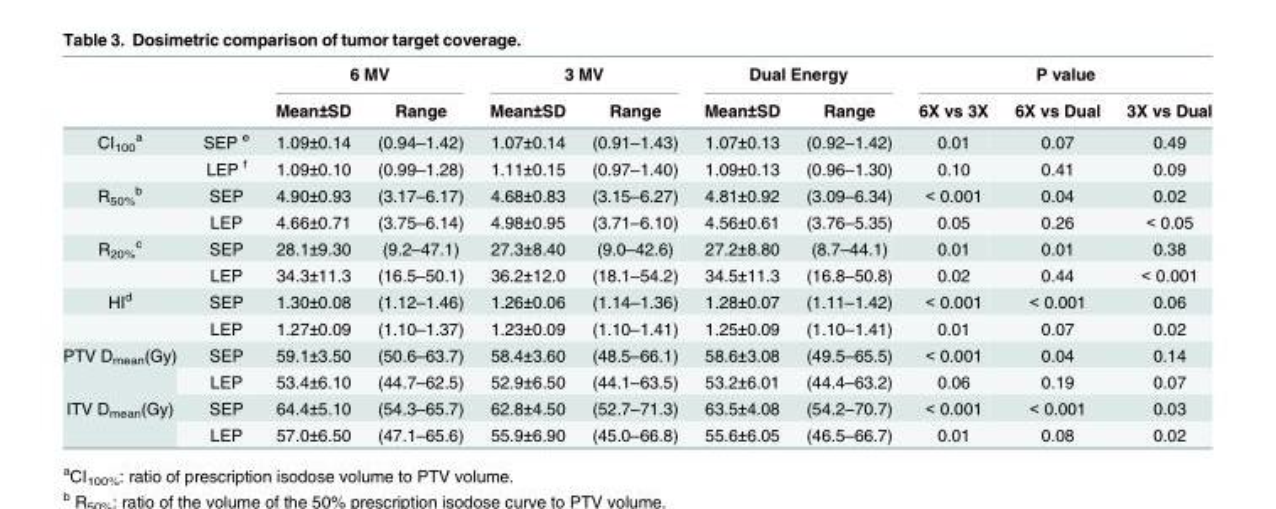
<table><thead><tr><td rowspan="2"></td><td rowspan="2"></td><td colspan="2">6 MV</td><td colspan="2">3 MV</td><td colspan="2">Dual Energy</td><td colspan="3">P value</td></tr><tr><td>Mean±SD</td><td>Range</td><td>Mean±SD</td><td>Range</td><td>Mean±SD</td><td>Range</td><td>6X vs 3X</td><td>6X vs Dual</td><td>3X vs Dual</td></tr></thead><tbody><tr><td rowspan="2">CI<sub>100</sub> <sup>a</sup></td><td>SEP <sup>e</sup></td><td>1.09±0.14</td><td>(0.94–1.42)</td><td>1.07±0.14</td><td>(0.91–1.43)</td><td>1.07±0.13</td><td>(0.92–1.42)</td><td>0.01</td><td>0.07</td><td>0.49</td></tr><tr><td>LEP <sup>f</sup></td><td>1.09±0.10</td><td>(0.99–1.28)</td><td>1.11±0.15</td><td>(0.97–1.40)</td><td>1.09±0.13</td><td>(0.96–1.30)</td><td>0.10</td><td>0.41</td><td>0.09</td></tr><tr><td rowspan="2">R<sub>50%</sub> <sup>b</sup></td><td>SEP</td><td>4.90±0.93</td><td>(3.17–6.17)</td><td>4.68±0.83</td><td>(3.15–6.27)</td><td>4.81±0.92</td><td>(3.09–6.34)</td><td>&lt; 0.001</td><td>0.04</td><td>0.02</td></tr><tr><td>LEP</td><td>4.66±0.71</td><td>(3.75–6.14)</td><td>4.98±0.95</td><td>(3.71–6.10)</td><td>4.56±0.61</td><td>(3.76–5.35)</td><td>0.05</td><td>0.26</td><td>&lt; 0.05</td></tr><tr><td rowspan="2">R<sub>20%</sub> <sup>c</sup></td><td>SEP</td><td>28.1±9.30</td><td>(9.2–47.1)</td><td>27.3±8.40</td><td>(9.0–42.6)</td><td>27.2±8.80</td><td>(8.7–44.1)</td><td>0.01</td><td>0.01</td><td>0.38</td></tr><tr><td>LEP</td><td>34.3±11.3</td><td>(16.5–50.1)</td><td>36.2±12.0</td><td>(18.1–54.2)</td><td>34.5±11.3</td><td>(16.8–50.8)</td><td>0.02</td><td>0.44</td><td>&lt; 0.001</td></tr><tr><td rowspan="2">HI<sup>d</sup></td><td>SEP</td><td>1.30±0.08</td><td>(1.12–1.46)</td><td>1.26±0.06</td><td>(1.14–1.36)</td><td>1.28±0.07</td><td>(1.11–1.42)</td><td>&lt; 0.001</td><td>&lt; 0.001</td><td>0.06</td></tr><tr><td>LEP</td><td>1.27±0.09</td><td>(1.10–1.37)</td><td>1.23±0.09</td><td>(1.10–1.41)</td><td>1.25±0.09</td><td>(1.10–1.41)</td><td>0.01</td><td>0.07</td><td>0.02</td></tr><tr><td rowspan="2">PTV D<sub>mean</sub>(Gy)</td><td>SEP</td><td>59.1±3.50</td><td>(50.6–63.7)</td><td>58.4±3.60</td><td>(48.5–66.1)</td><td>58.6±3.08</td><td>(49.5–65.5)</td><td>&lt; 0.001</td><td>0.04</td><td>0.14</td></tr><tr><td>LEP</td><td>53.4±6.10</td><td>(44.7–62.5)</td><td>52.9±6.50</td><td>(44.1–63.5)</td><td>53.2±6.01</td><td>(44.4–63.2)</td><td>0.06</td><td>0.19</td><td>0.07</td></tr><tr><td rowspan="2">ITV D<sub>mean</sub>(Gy)</td><td>SEP</td><td>64.4±5.10</td><td>(54.3–65.7)</td><td>62.8±4.50</td><td>(52.7–71.3)</td><td>63.5±4.08</td><td>(54.2–70.7)</td><td>&lt; 0.001</td><td>&lt; 0.001</td><td>0.03</td></tr><tr><td>LEP</td><td>57.0±6.50</td><td>(47.1–65.6)</td><td>55.9±6.90</td><td>(45.0–66.8)</td><td>55.6±6.05</td><td>(46.5–66.7)</td><td>0.01</td><td>0.08</td><td>0.02</td></tr></tbody></table>